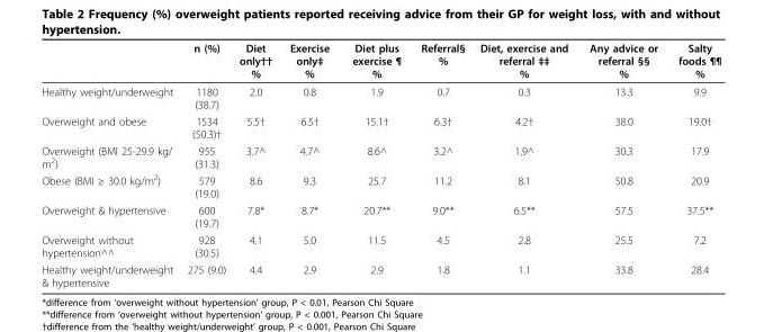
<table><thead><tr><td></td><td>n (%)</td><td>Diet only†† %</td><td>Exercise only‡ %</td><td>Diet plus exercise ¶ %</td><td>Referral§ %</td><td>Diet, exercise and referral ‡‡ %</td><td>Any advice or referral §§ %</td><td>Salty foods ¶¶ %</td></tr></thead><tbody><tr><td>Healthy weight/underweight</td><td>1180 (38.7)</td><td>2.0</td><td>0.8</td><td>1.9</td><td>0.7</td><td>0.3</td><td>13.3</td><td>9.9</td></tr><tr><td>Overweight and obese</td><td>1534 (50.3)†</td><td>5.5†</td><td>6.5†</td><td>15.1†</td><td>6.3†</td><td>4.2†</td><td>38.0</td><td>19.0†</td></tr><tr><td>Overweight (BMI 25-29.9 kg/ m<sup>2</sup>)</td><td>955 (31.3)</td><td>3.7^</td><td>4.7^</td><td>8.6^</td><td>3.2^</td><td>1.9^</td><td>30.3</td><td>17.9</td></tr><tr><td>Obese (BMI ≥ 30.0 kg/m<sup>2</sup>)</td><td>579 (19.0)</td><td>8.6</td><td>9.3</td><td>25.7</td><td>11.2</td><td>8.1</td><td>50.8</td><td>20.9</td></tr><tr><td>Overweight &amp; hypertensive</td><td>600 (19.7)</td><td>7.8*</td><td>8.7*</td><td>20.7**</td><td>9.0**</td><td>6.5**</td><td>57.5</td><td>37.5**</td></tr><tr><td>Overweight without hypertension^^</td><td>928 (30.5)</td><td>4.1</td><td>5.0</td><td>11.5</td><td>4.5</td><td>2.8</td><td>25.5</td><td>7.2</td></tr><tr><td>Healthy weight/underweight &amp; hypertensive</td><td>275 (9.0)</td><td>4.4</td><td>2.9</td><td>2.9</td><td>1.8</td><td>1.1</td><td>33.8</td><td>28.4</td></tr></tbody></table>